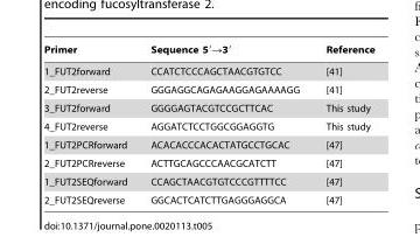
<table><thead><tr><td>Primer</td><td>Sequence 5′→3′</td><td>Reference</td></tr></thead><tbody><tr><td>1_FUT2forward</td><td>CCATCTCCCAGCTAACGTGTCC</td><td>[41]</td></tr><tr><td>2_FUT2reverse</td><td>GGGAGGCAGAGAAGGAGAAAAGG</td><td>[41]</td></tr><tr><td>3_FUT2forward</td><td>GGGGAGTACGTCCGCTTCAC</td><td>This study</td></tr><tr><td>4_FUT2reverse</td><td>AGGATCTCCTGGCGGAGGTG</td><td>This study</td></tr><tr><td>1_FUT2PCRforward</td><td>ACACACCCACACTATGCCTGCAC</td><td>[47]</td></tr><tr><td>2_FUT2PCRreverse</td><td>ACTTGCAGCCCAACGCATCTT</td><td>[47]</td></tr><tr><td>1_FUT2SEQforward</td><td>CCAGCTAACGTGTCCCGTTTTCC</td><td>[47]</td></tr><tr><td>2_FUT2SEQreverse</td><td>GGCACTCATCTTGAGGGAGGCA</td><td>[47]</td></tr></tbody></table>